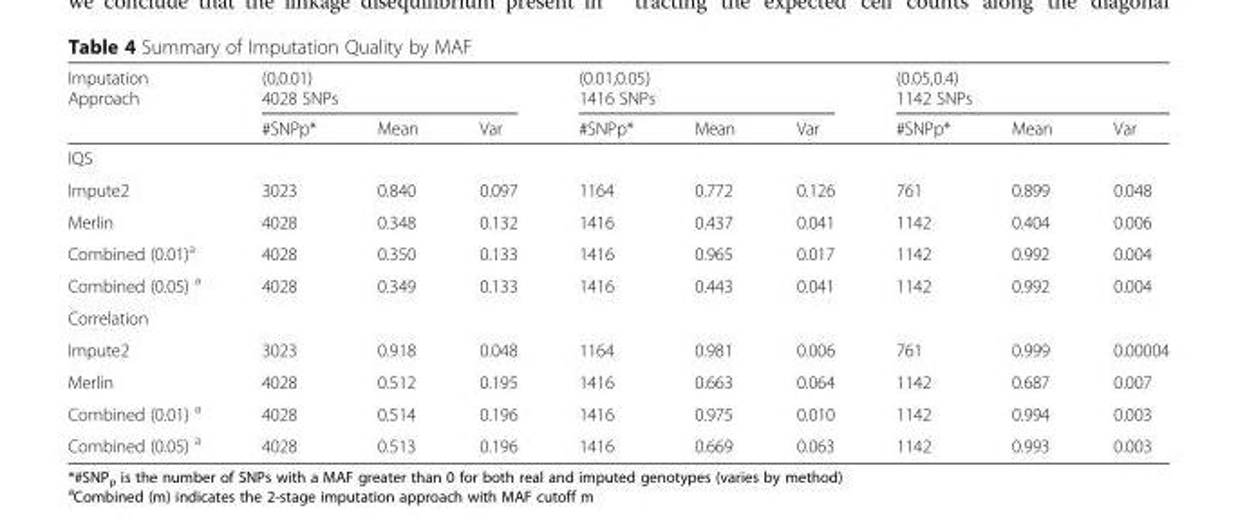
<table><thead><tr><td rowspan="2">Imputation Approach</td><td colspan="3">(0,0.01) 4028 SNPs</td><td colspan="3">(0.01,0.05) 1416 SNPs</td><td colspan="3">(0.05,0.4) 1142 SNPs</td></tr><tr><td>#SNPp*</td><td>Mean</td><td>Var</td><td>#SNPp*</td><td>Mean</td><td>Var</td><td>#SNPp*</td><td>Mean</td><td>Var</td></tr></thead><tbody><tr><td colspan="10">IQS</td></tr><tr><td>Impute2</td><td>3023</td><td>0.840</td><td>0.097</td><td>1164</td><td>0.772</td><td>0.126</td><td>761</td><td>0.899</td><td>0.048</td></tr><tr><td>Merlin</td><td>4028</td><td>0.348</td><td>0.132</td><td>1416</td><td>0.437</td><td>0.041</td><td>1142</td><td>0.404</td><td>0.006</td></tr><tr><td>Combined (0.01)<sup>a</sup></td><td>4028</td><td>0.350</td><td>0.133</td><td>1416</td><td>0.965</td><td>0.017</td><td>1142</td><td>0.992</td><td>0.004</td></tr><tr><td>Combined (0.05) <sup>a</sup></td><td>4028</td><td>0.349</td><td>0.133</td><td>1416</td><td>0.443</td><td>0.041</td><td>1142</td><td>0.992</td><td>0.004</td></tr><tr><td colspan="10">Correlation</td></tr><tr><td>Impute2</td><td>3023</td><td>0.918</td><td>0.048</td><td>1164</td><td>0.981</td><td>0.006</td><td>761</td><td>0.999</td><td>0.00004</td></tr><tr><td>Merlin</td><td>4028</td><td>0.512</td><td>0.195</td><td>1416</td><td>0.663</td><td>0.064</td><td>1142</td><td>0.687</td><td>0.007</td></tr><tr><td>Combined (0.01) <sup>a</sup></td><td>4028</td><td>0.514</td><td>0.196</td><td>1416</td><td>0.975</td><td>0.010</td><td>1142</td><td>0.994</td><td>0.003</td></tr><tr><td>Combined (0.05) <sup>a</sup></td><td>4028</td><td>0.513</td><td>0.196</td><td>1416</td><td>0.669</td><td>0.063</td><td>1142</td><td>0.993</td><td>0.003</td></tr></tbody></table>